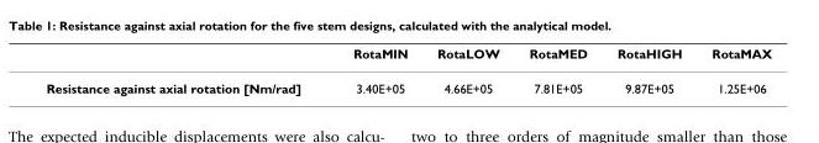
<table><thead><tr><td></td><td>RotaMIN</td><td>RotaLOW</td><td>RotaMED</td><td>RotaHIGH</td><td>RotaMAX</td></tr></thead><tbody><tr><td>Resistance against axial rotation [Nm/rad]</td><td>3.40E+05</td><td>4.66E+05</td><td>7.81E+05</td><td>9.87E+05</td><td>1.25E+06</td></tr></tbody></table>